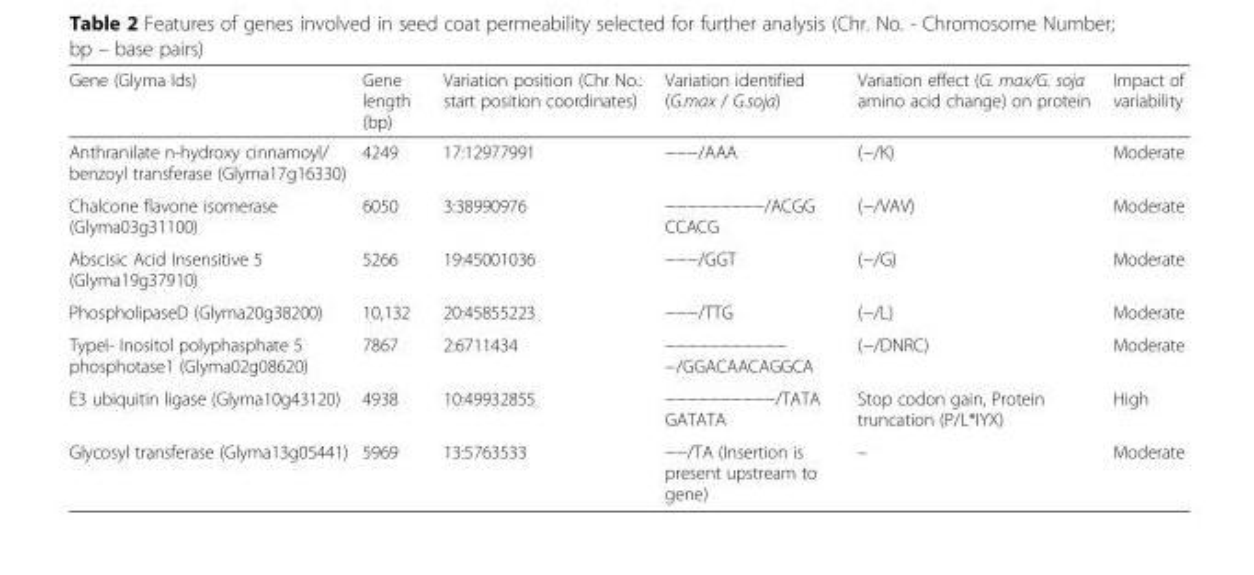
<table><thead><tr><td>Gene (Glyma Ids)</td><td>Gene length (bp)</td><td>Variation position (Chr No.: start position coordinates)</td><td>Variation identified (G.max / G.soja)</td><td>Variation effect (G. max/G. soja amino acid change) on protein</td><td>Impact of variability</td></tr></thead><tbody><tr><td>Anthranilate n-hydroxy cinnamoyl/ benzoyl transferase (Glyma17g16330)</td><td>4249</td><td>17:12977991</td><td>−−−/AAA</td><td>(−/K)</td><td>Moderate</td></tr><tr><td>Chalcone flavone isomerase (Glyma03g31100)</td><td>6050</td><td>3:38990976</td><td>−−−−−−−−−/ACGG CCACG</td><td>(−/VAV)</td><td>Moderate</td></tr><tr><td>Abscisic Acid Insensitive 5 (Glyma19g37910)</td><td>5266</td><td>19:45001036</td><td>−−−/GGT</td><td>(−/G)</td><td>Moderate</td></tr><tr><td>PhospholipaseD (Glyma20g38200)</td><td>10,132</td><td>20:45855223</td><td>−−−/TTG</td><td>(−/L)</td><td>Moderate</td></tr><tr><td>TypeI- Inositol polyphasphate 5 phosphotase1 (Glyma02g08620)</td><td>7867</td><td>2:6711434</td><td>−−−−−−−−−−− −/GGACAACAGGCA</td><td>(−/DNRC)</td><td>Moderate</td></tr><tr><td>E3 ubiquitin ligase (Glyma10g43120)</td><td>4938</td><td>10:49932855</td><td>−−−−−−−−−−/TATA GATATA</td><td>Stop codon gain, Protein truncation (P/L*IYX)</td><td>High</td></tr><tr><td>Glycosyl transferase (Glyma13g05441)</td><td>5969</td><td>13:5763533</td><td>−−/TA (Insertion is present upstream to gene)</td><td>–</td><td>Moderate</td></tr></tbody></table>